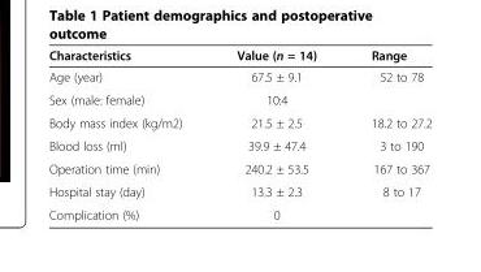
<table><thead><tr><td>Characteristics</td><td>Value (n = 14)</td><td>Range</td></tr></thead><tbody><tr><td>Age (year)</td><td>67.5 ± 9.1</td><td>52 to 78</td></tr><tr><td>Sex (male: female)</td><td>10:4</td><td></td></tr><tr><td>Body mass index (kg/m2)</td><td>21.5 ± 2.5</td><td>18.2 to 27.2</td></tr><tr><td>Blood loss (ml)</td><td>39.9 ± 47.4</td><td>3 to 190</td></tr><tr><td>Operation time (min)</td><td>240.2 ± 53.5</td><td>167 to 367</td></tr><tr><td>Hospital stay (day)</td><td>13.3 ± 2.3</td><td>8 to 17</td></tr><tr><td>Complication (%)</td><td>0</td><td></td></tr></tbody></table>